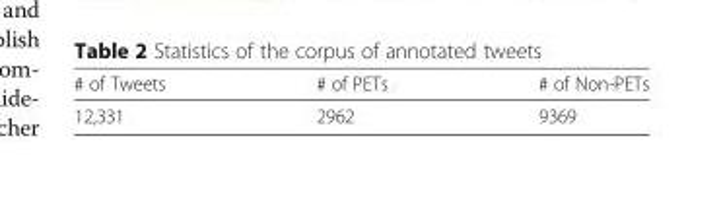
<table><thead><tr><td># of Tweets</td><td># of PETs</td><td># of Non-PETs</td></tr></thead><tbody><tr><td>12,331</td><td>2962</td><td>9369</td></tr></tbody></table>